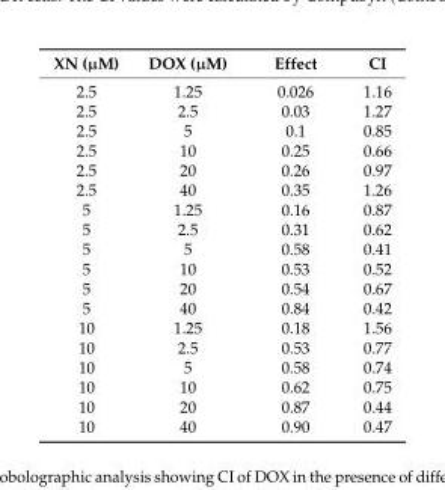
<table><thead><tr><td>XN (µM)</td><td>DOX (µM)</td><td>Effect</td><td>CI</td></tr></thead><tbody><tr><td>2.5</td><td>1.25</td><td>0.026</td><td>1.16</td></tr><tr><td>2.5</td><td>2.5</td><td>0.03</td><td>1.27</td></tr><tr><td>2.5</td><td>5</td><td>0.1</td><td>0.85</td></tr><tr><td>2.5</td><td>10</td><td>0.25</td><td>0.66</td></tr><tr><td>2.5</td><td>20</td><td>0.26</td><td>0.97</td></tr><tr><td>2.5</td><td>40</td><td>0.35</td><td>1.26</td></tr><tr><td>5</td><td>1.25</td><td>0.16</td><td>0.87</td></tr><tr><td>5</td><td>2.5</td><td>0.31</td><td>0.62</td></tr><tr><td>5</td><td>5</td><td>0.58</td><td>0.41</td></tr><tr><td>5</td><td>10</td><td>0.53</td><td>0.52</td></tr><tr><td>5</td><td>20</td><td>0.54</td><td>0.67</td></tr><tr><td>5</td><td>40</td><td>0.84</td><td>0.42</td></tr><tr><td>10</td><td>1.25</td><td>0.18</td><td>1.56</td></tr><tr><td>10</td><td>2.5</td><td>0.53</td><td>0.77</td></tr><tr><td>10</td><td>5</td><td>0.58</td><td>0.74</td></tr><tr><td>10</td><td>10</td><td>0.62</td><td>0.75</td></tr><tr><td>10</td><td>20</td><td>0.87</td><td>0.44</td></tr><tr><td>10</td><td>40</td><td>0.90</td><td>0.47</td></tr></tbody></table>